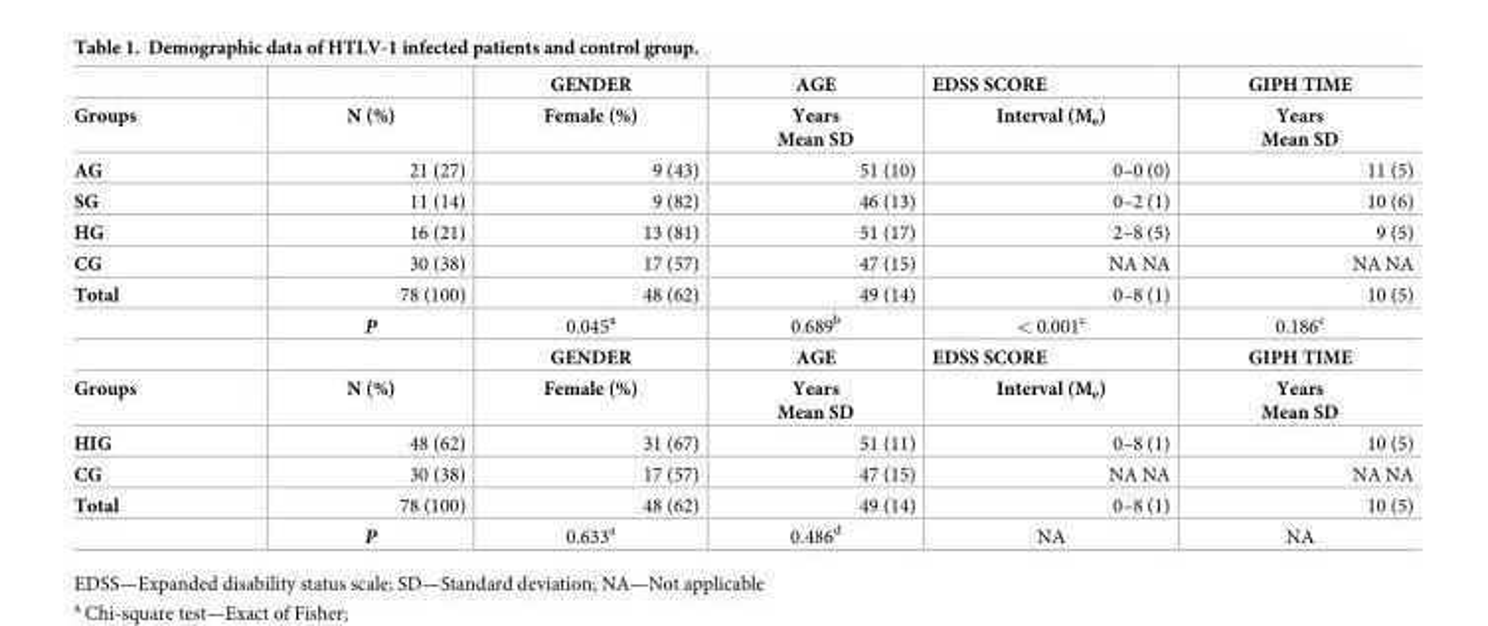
<table><thead><tr><td></td><td></td><td>GENDER</td><td>AGE</td><td>EDSS SCORE</td><td>GIPH TIME</td></tr></thead><tbody><tr><td>Groups</td><td>N (%)</td><td>Female (%)</td><td>Years Mean SD</td><td>Interval (M<sub>e</sub>)</td><td>Years Mean SD</td></tr><tr><td>AG</td><td>21 (27)</td><td>9 (43)</td><td>51 (10)</td><td>0–0 (0)</td><td>11 (5)</td></tr><tr><td>SG</td><td>11 (14)</td><td>9 (82)</td><td>46 (13)</td><td>0–2 (1)</td><td>10 (6)</td></tr><tr><td>HG</td><td>16 (21)</td><td>13 (81)</td><td>51 (17)</td><td>2–8 (5)</td><td>9 (5)</td></tr><tr><td>CG</td><td>30 (38)</td><td>17 (57)</td><td>47 (15)</td><td>NA NA</td><td>NA NA</td></tr><tr><td rowspan="3">Total</td><td>78 (100)</td><td>48 (62)</td><td>49 (14)</td><td>0–8 (1)</td><td>10 (5)</td></tr><tr><td>P</td><td>0.045<sup>a</sup></td><td>0.689<sup>b</sup></td><td>&lt; 0.001<sup>c</sup></td><td>0.186<sup>c</sup></td></tr><tr><td></td><td>GENDER</td><td>AGE</td><td>EDSS SCORE</td><td>GIPH TIME</td></tr><tr><td>Groups</td><td>N (%)</td><td>Female (%)</td><td>Years Mean SD</td><td>Interval (M<sub>e</sub>)</td><td>Years Mean SD</td></tr><tr><td>HIG</td><td>48 (62)</td><td>31 (67)</td><td>51 (11)</td><td>0–8 (1)</td><td>10 (5)</td></tr><tr><td>CG</td><td>30 (38)</td><td>17 (57)</td><td>47 (15)</td><td>NA NA</td><td>NA NA</td></tr><tr><td rowspan="2">Total</td><td>78 (100)</td><td>48 (62)</td><td>49 (14)</td><td>0–8 (1)</td><td>10 (5)</td></tr><tr><td>P</td><td>0.633<sup>a</sup></td><td>0.486<sup>d</sup></td><td>NA</td><td>NA</td></tr></tbody></table>